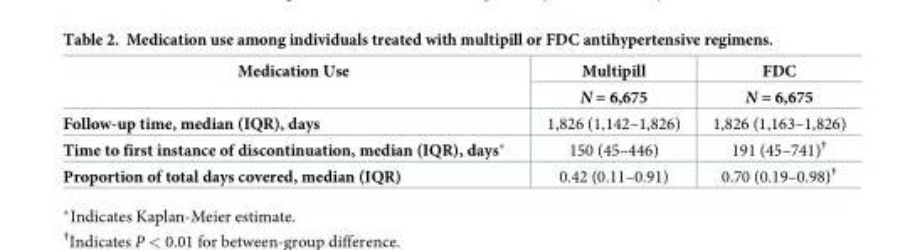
<table><thead><tr><td rowspan="2">Medication Use</td><td rowspan="2">Multipill N = 6,675</td><td rowspan="2">FDC N = 6,675</td></tr><tr></tr></thead><tbody><tr><td>Follow-up time, median (IQR), days</td><td>1,826 (1,142–1,826)</td><td>1,826 (1,163–1,826)</td></tr><tr><td>Time to first instance of discontinuation, median (IQR), days*</td><td>150 (45–446)</td><td>191 (45–741)<sup>†</sup></td></tr><tr><td>Proportion of total days covered, median (IQR)</td><td>0.42 (0.11–0.91)</td><td>0.70 (0.19–0.98)<sup>†</sup></td></tr></tbody></table>